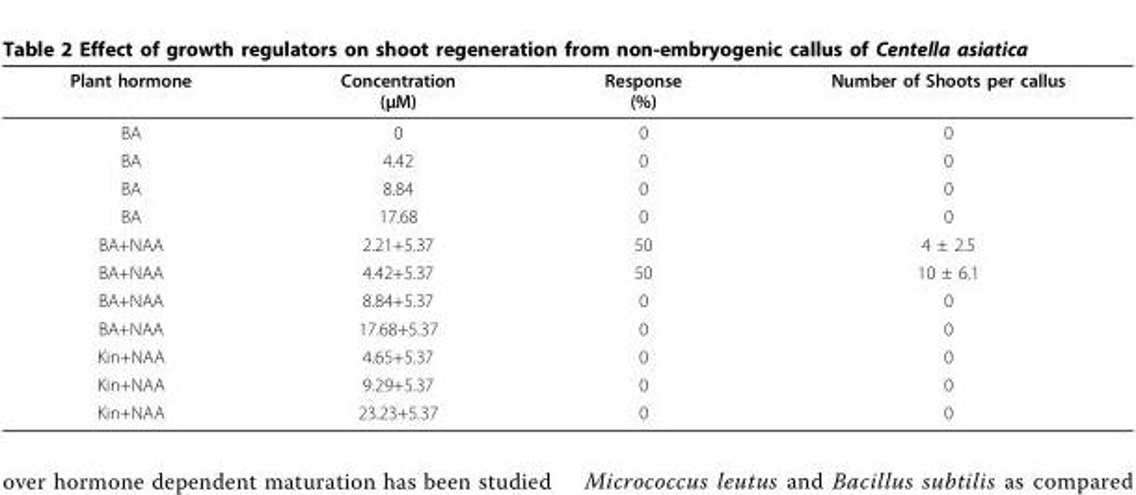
<table><thead><tr><td>Plant hormone</td><td>Concentration (μM)</td><td>Response (%)</td><td>Number of Shoots per callus</td></tr></thead><tbody><tr><td>BA</td><td>0</td><td>0</td><td>0</td></tr><tr><td>BA</td><td>4.42</td><td>0</td><td>0</td></tr><tr><td>BA</td><td>8.84</td><td>0</td><td>0</td></tr><tr><td>BA</td><td>17.68</td><td>0</td><td>0</td></tr><tr><td>BA+NAA</td><td>2.21+5.37</td><td>50</td><td>4 ± 2.5</td></tr><tr><td>BA+NAA</td><td>4.42+5.37</td><td>50</td><td>10 ± 6.1</td></tr><tr><td>BA+NAA</td><td>8.84+5.37</td><td>0</td><td>0</td></tr><tr><td>BA+NAA</td><td>17.68+5.37</td><td>0</td><td>0</td></tr><tr><td>Kin+NAA</td><td>4.65+5.37</td><td>0</td><td>0</td></tr><tr><td>Kin+NAA</td><td>9.29+5.37</td><td>0</td><td>0</td></tr><tr><td>Kin+NAA</td><td>23.23+5.37</td><td>0</td><td>0</td></tr></tbody></table>